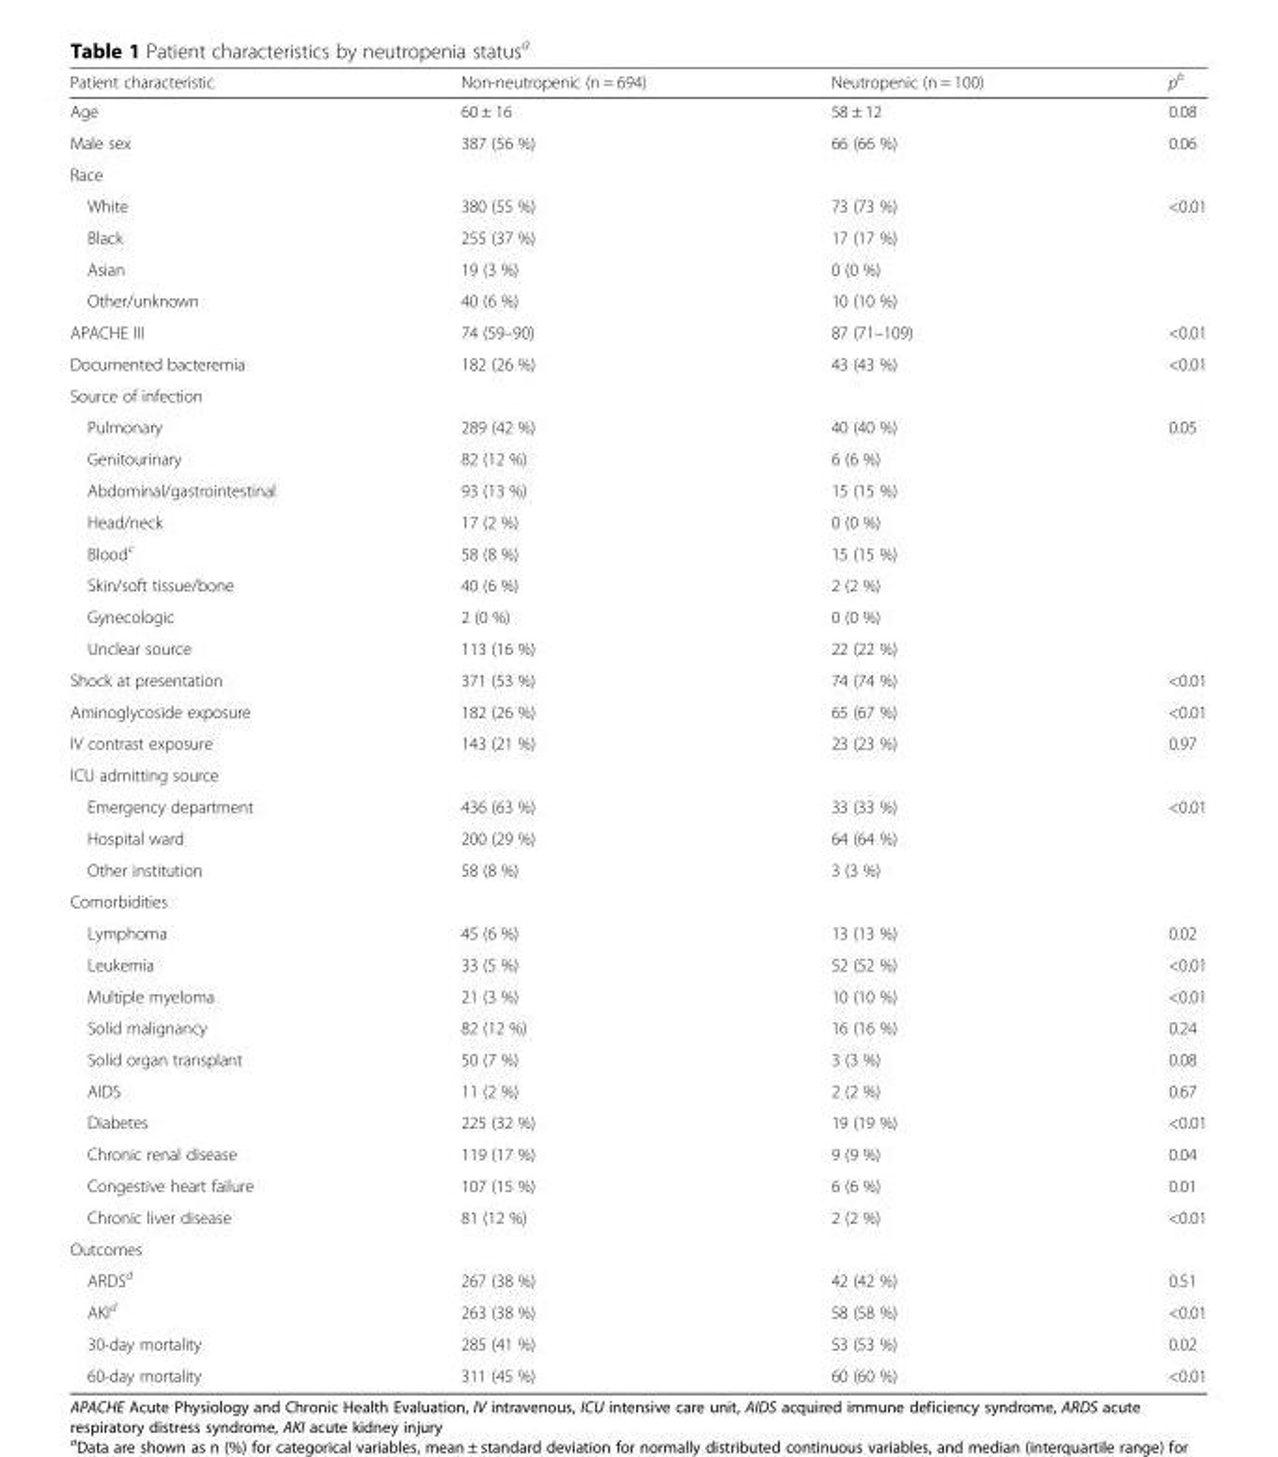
<table><thead><tr><td>Patient characteristic</td><td>Non-neutropenic (n = 694)</td><td>Neutropenic (n = 100)</td><td>p<sup>b</sup></td></tr></thead><tbody><tr><td>Age</td><td>60 ± 16</td><td>58 ± 12</td><td>0.08</td></tr><tr><td>Male sex</td><td>387 (56 %)</td><td>66 (66 %)</td><td>0.06</td></tr><tr><td colspan="4">Race</td></tr><tr><td>White</td><td>380 (55 %)</td><td>73 (73 %)</td><td>&lt;0.01</td></tr><tr><td>Black</td><td>255 (37 %)</td><td>17 (17 %)</td><td></td></tr><tr><td>Asian</td><td>19 (3 %)</td><td>0 (0 %)</td><td></td></tr><tr><td>Other/unknown</td><td>40 (6 %)</td><td>10 (10 %)</td><td></td></tr><tr><td>APACHE III</td><td>74 (59–90)</td><td>87 (71–109)</td><td>&lt;0.01</td></tr><tr><td>Documented bacteremia</td><td>182 (26 %)</td><td>43 (43 %)</td><td>&lt;0.01</td></tr><tr><td colspan="4">Source of infection</td></tr><tr><td>Pulmonary</td><td>289 (42 %)</td><td>40 (40 %)</td><td>0.05</td></tr><tr><td>Genitourinary</td><td>82 (12 %)</td><td>6 (6 %)</td><td></td></tr><tr><td>Abdominal/gastrointestinal</td><td>93 (13 %)</td><td>15 (15 %)</td><td></td></tr><tr><td>Head/neck</td><td>17 (2 %)</td><td>0 (0 %)</td><td></td></tr><tr><td>Blood<sup>c</sup></td><td>58 (8 %)</td><td>15 (15 %)</td><td></td></tr><tr><td>Skin/soft tissue/bone</td><td>40 (6 %)</td><td>2 (2 %)</td><td></td></tr><tr><td>Gynecologic</td><td>2 (0 %)</td><td>0 (0 %)</td><td></td></tr><tr><td>Unclear source</td><td>113 (16 %)</td><td>22 (22 %)</td><td></td></tr><tr><td>Shock at presentation</td><td>371 (53 %)</td><td>74 (74 %)</td><td>&lt;0.01</td></tr><tr><td>Aminoglycoside exposure</td><td>182 (26 %)</td><td>65 (67 %)</td><td>&lt;0.01</td></tr><tr><td>IV contrast exposure</td><td>143 (21 %)</td><td>23 (23 %)</td><td>0.97</td></tr><tr><td colspan="4">ICU admitting source</td></tr><tr><td>Emergency department</td><td>436 (63 %)</td><td>33 (33 %)</td><td>&lt;0.01</td></tr><tr><td>Hospital ward</td><td>200 (29 %)</td><td>64 (64 %)</td><td></td></tr><tr><td>Other institution</td><td>58 (8 %)</td><td>3 (3 %)</td><td></td></tr><tr><td colspan="4">Comorbidities</td></tr><tr><td>Lymphoma</td><td>45 (6 %)</td><td>13 (13 %)</td><td>0.02</td></tr><tr><td>Leukemia</td><td>33 (5 %)</td><td>52 (52 %)</td><td>&lt;0.01</td></tr><tr><td>Multiple myeloma</td><td>21 (3 %)</td><td>10 (10 %)</td><td>&lt;0.01</td></tr><tr><td>Solid malignancy</td><td>82 (12 %)</td><td>16 (16 %)</td><td>0.24</td></tr><tr><td>Solid organ transplant</td><td>50 (7 %)</td><td>3 (3 %)</td><td>0.08</td></tr><tr><td>AIDS</td><td>11 (2 %)</td><td>2 (2 %)</td><td>0.67</td></tr><tr><td>Diabetes</td><td>225 (32 %)</td><td>19 (19 %)</td><td>&lt;0.01</td></tr><tr><td>Chronic renal disease</td><td>119 (17 %)</td><td>9 (9 %)</td><td>0.04</td></tr><tr><td>Congestive heart failure</td><td>107 (15 %)</td><td>6 (6 %)</td><td>0.01</td></tr><tr><td>Chronic liver disease</td><td>81 (12 %)</td><td>2 (2 %)</td><td>&lt;0.01</td></tr><tr><td colspan="4">Outcomes</td></tr><tr><td>ARDS<sup>d</sup></td><td>267 (38 %)</td><td>42 (42 %)</td><td>0.51</td></tr><tr><td>AKI<sup>d</sup></td><td>263 (38 %)</td><td>58 (58 %)</td><td>&lt;0.01</td></tr><tr><td>30-day mortality</td><td>285 (41 %)</td><td>53 (53 %)</td><td>0.02</td></tr><tr><td>60-day mortality</td><td>311 (45 %)</td><td>60 (60 %)</td><td>&lt;0.01</td></tr></tbody></table>